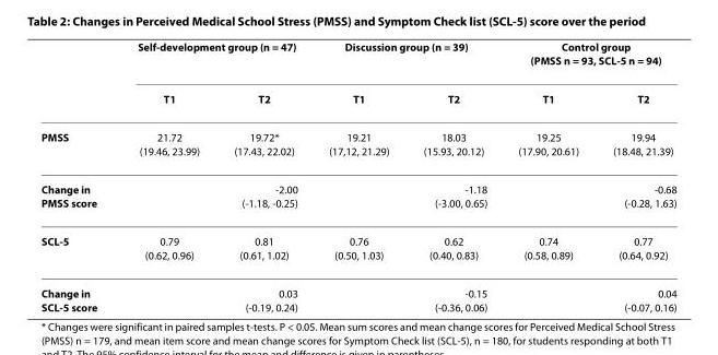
<table><thead><tr><td rowspan="2"></td><td colspan="2">Self-development group (n = 47)</td><td colspan="2">Discussion group (n = 39)</td><td colspan="2">Control group (PMSS n = 93, SCL-5 n = 94)</td></tr><tr><td>T1</td><td>T2</td><td>T1</td><td>T2</td><td>T1</td><td>T2</td></tr></thead><tbody><tr><td>PMSS</td><td>21.72 (19.46, 23.99)</td><td>19.72* (17.43, 22.02)</td><td>19.21 (17,12, 21.29)</td><td>18.03 (15.93, 20.12)</td><td>19.25 (17.90, 20.61)</td><td>19.94 (18.48, 21.39)</td></tr><tr><td>Change in PMSS score</td><td colspan="2">-2.00 (-1.18, -0.25)</td><td colspan="2">-1.18 (-3.00, 0.65)</td><td colspan="2">-0.68 (-0.28, 1.63)</td></tr><tr><td>SCL-5</td><td>0.79 (0.62, 0.96)</td><td>0.81 (0.61, 1.02)</td><td>0.76 (0.50, 1.03)</td><td>0.62 (0.40, 0.83)</td><td>0.74 (0.58, 0.89)</td><td>0.77 (0.64, 0.92)</td></tr><tr><td>Change in SCL-5 score</td><td colspan="2">0.03 (-0.19, 0.24)</td><td colspan="2">-0.15 (-0.36, 0.06)</td><td colspan="2">0.04 (-0.07, 0.16)</td></tr></tbody></table>